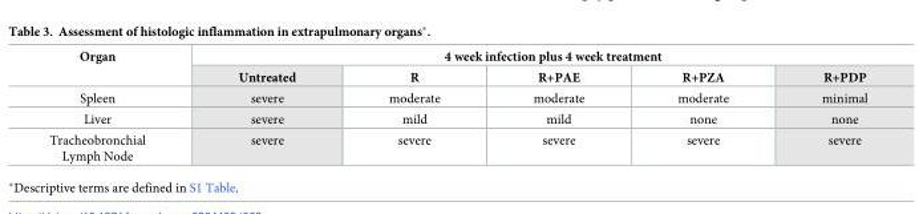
<table><thead><tr><td rowspan="2">Organ</td><td colspan="5">4 week infection plus 4 week treatment</td></tr><tr><td>Untreated</td><td>R</td><td>R+PAE</td><td>R+PZA</td><td>R+PDP</td></tr></thead><tbody><tr><td>Spleen</td><td>severe</td><td>moderate</td><td>moderate</td><td>moderate</td><td>minimal</td></tr><tr><td>Liver</td><td>severe</td><td>mild</td><td>mild</td><td>none</td><td>none</td></tr><tr><td>Tracheobronchial Lymph Node</td><td>severe</td><td>severe</td><td>severe</td><td>severe</td><td>severe</td></tr></tbody></table>